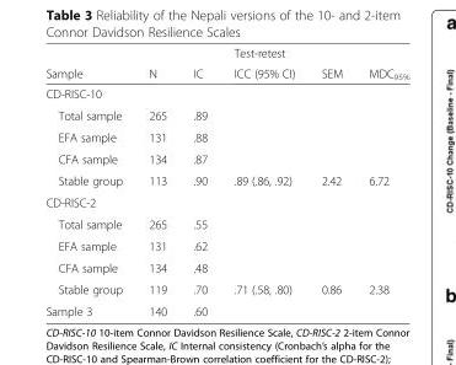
<table><thead><tr><td rowspan="2">Sample</td><td rowspan="2">N</td><td rowspan="2">IC</td><td rowspan="2">Test-retest ICC (95% CI)</td><td rowspan="2">SEM</td><td rowspan="2">MDC<sub>95%</sub></td></tr><tr></tr></thead><tbody><tr><td colspan="6">CD-RISC-10</td></tr><tr><td>Total sample</td><td>265</td><td>.89</td><td></td><td></td><td></td></tr><tr><td>EFA sample</td><td>131</td><td>.88</td><td></td><td></td><td></td></tr><tr><td>CFA sample</td><td>134</td><td>.87</td><td></td><td></td><td></td></tr><tr><td>Stable group</td><td>113</td><td>.90</td><td>.89 (.86, .92)</td><td>2.42</td><td>6.72</td></tr><tr><td colspan="6">CD-RISC-2</td></tr><tr><td>Total sample</td><td>265</td><td>.55</td><td></td><td></td><td></td></tr><tr><td>EFA sample</td><td>131</td><td>.62</td><td></td><td></td><td></td></tr><tr><td>CFA sample</td><td>134</td><td>.48</td><td></td><td></td><td></td></tr><tr><td>Stable group</td><td>119</td><td>.70</td><td>.71 (.58, .80)</td><td>0.86</td><td>2.38</td></tr><tr><td>Sample 3</td><td>140</td><td>.60</td><td></td><td></td><td></td></tr></tbody></table>